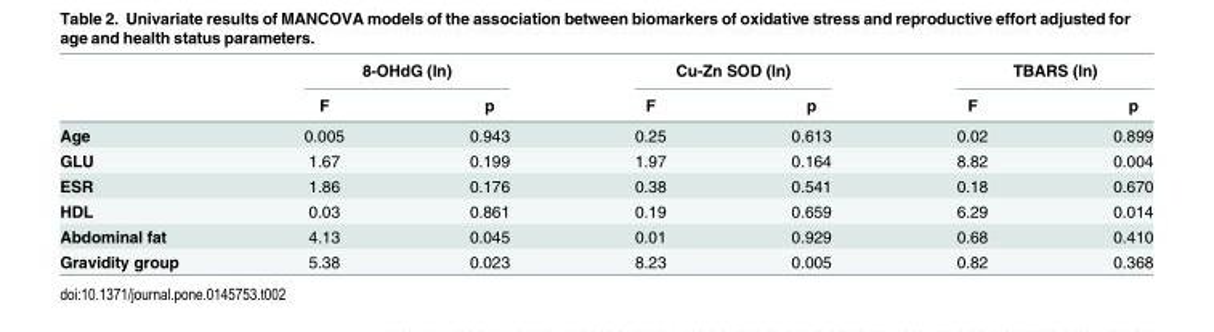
<table><thead><tr><td rowspan="2"></td><td colspan="2">8-OHdG (ln)</td><td colspan="2">Cu-Zn SOD (ln)</td><td colspan="2">TBARS (ln)</td></tr><tr><td>F</td><td>p</td><td>F</td><td>p</td><td>F</td><td>p</td></tr></thead><tbody><tr><td>Age</td><td>0.005</td><td>0.943</td><td>0.25</td><td>0.613</td><td>0.02</td><td>0.899</td></tr><tr><td>GLU</td><td>1.67</td><td>0.199</td><td>1.97</td><td>0.164</td><td>8.82</td><td>0.004</td></tr><tr><td>ESR</td><td>1.86</td><td>0.176</td><td>0.38</td><td>0.541</td><td>0.18</td><td>0.670</td></tr><tr><td>HDL</td><td>0.03</td><td>0.861</td><td>0.19</td><td>0.659</td><td>6.29</td><td>0.014</td></tr><tr><td>Abdominal fat</td><td>4.13</td><td>0.045</td><td>0.01</td><td>0.929</td><td>0.68</td><td>0.410</td></tr><tr><td>Gravidity group</td><td>5.38</td><td>0.023</td><td>8.23</td><td>0.005</td><td>0.82</td><td>0.368</td></tr></tbody></table>